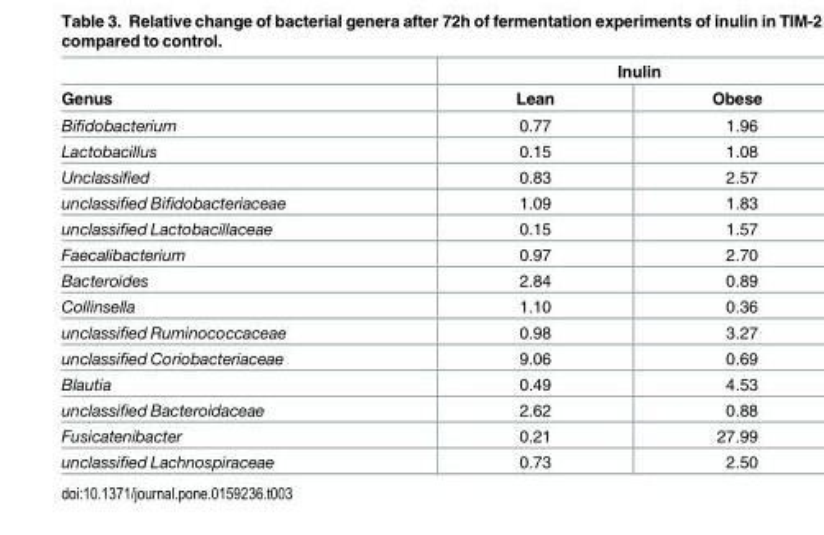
<table><thead><tr><td rowspan="2">Genus</td><td colspan="2">Inulin</td></tr><tr><td>Lean</td><td>Obese</td></tr></thead><tbody><tr><td>Bifidobacterium</td><td>0.77</td><td>1.96</td></tr><tr><td>Lactobacillus</td><td>0.15</td><td>1.08</td></tr><tr><td>Unclassified</td><td>0.83</td><td>2.57</td></tr><tr><td>unclassified Bifidobacteriaceae</td><td>1.09</td><td>1.83</td></tr><tr><td>unclassified Lactobacillaceae</td><td>0.15</td><td>1.57</td></tr><tr><td>Faecalibacterium</td><td>0.97</td><td>2.70</td></tr><tr><td>Bacteroides</td><td>2.84</td><td>0.89</td></tr><tr><td>Collinsella</td><td>1.10</td><td>0.36</td></tr><tr><td>unclassified Ruminococcaceae</td><td>0.98</td><td>3.27</td></tr><tr><td>unclassified Coriobacteriaceae</td><td>9.06</td><td>0.69</td></tr><tr><td>Blautia</td><td>0.49</td><td>4.53</td></tr><tr><td>unclassified Bacteroidaceae</td><td>2.62</td><td>0.88</td></tr><tr><td>Fusicatenibacter</td><td>0.21</td><td>27.99</td></tr><tr><td>unclassified Lachnospiraceae</td><td>0.73</td><td>2.50</td></tr></tbody></table>